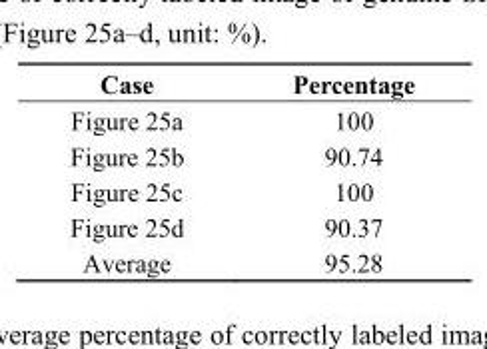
<table><thead><tr><td>Case</td><td>Percentage</td></tr></thead><tbody><tr><td>Figure 25a</td><td>100</td></tr><tr><td>Figure 25b</td><td>90.74</td></tr><tr><td>Figure 25c</td><td>100</td></tr><tr><td>Figure 25d</td><td>90.37</td></tr><tr><td>Average</td><td>95.28</td></tr></tbody></table>